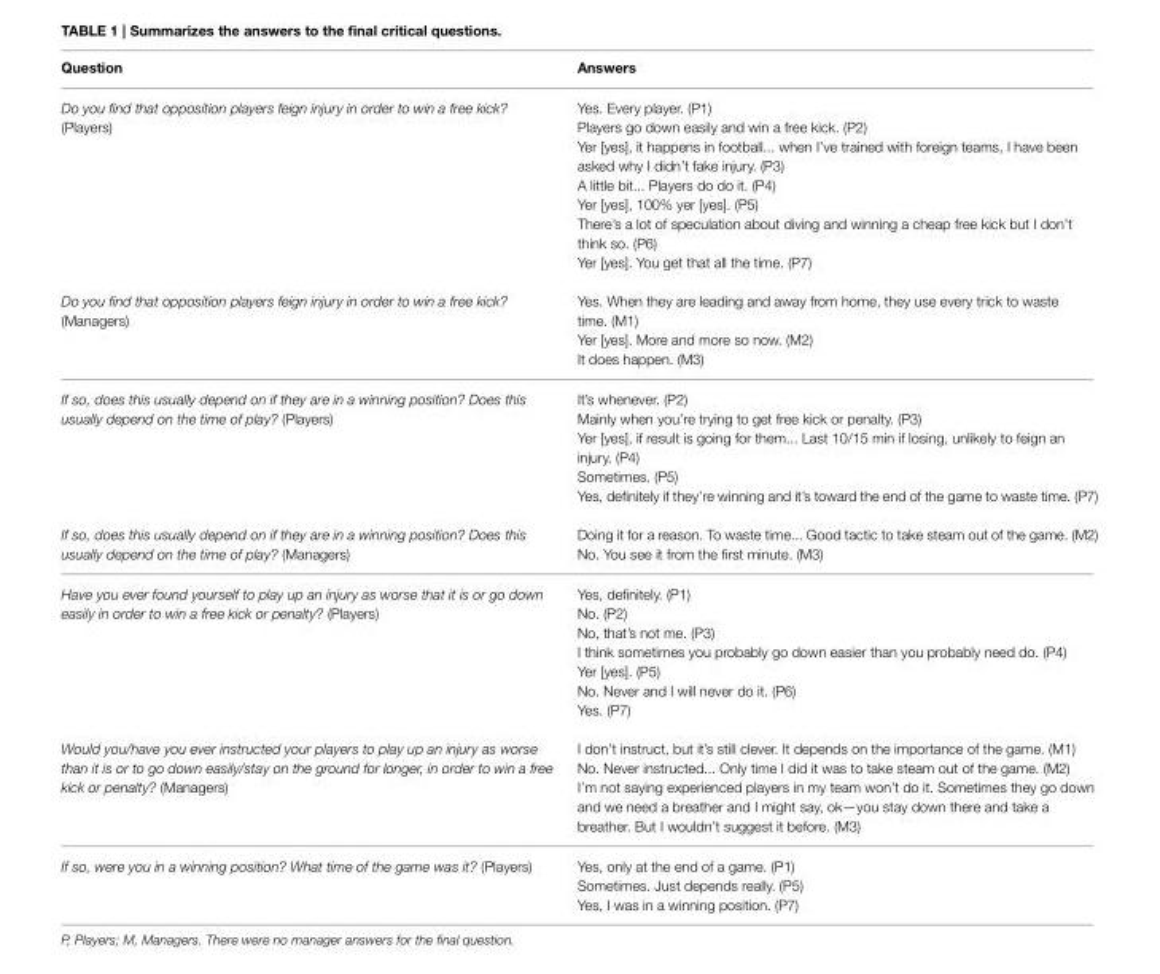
<table><thead><tr><td>Question</td><td>Answers</td></tr></thead><tbody><tr><td>Do you find that opposition players feign injury in order to win a free kick? (Players) Do you find that opposition players feign injury in order to win a free kick? (Managers)</td><td>Yes. Every player. (P1) Players go down easily and win a free kick. (P2) Yer [yes], it happens in football... when I’ve trained with foreign teams, I have been asked why I didn’t fake injury. (P3) A little bit... Players do do it. (P4) Yer [yes], 100% yer [yes]. (P5) There’s a lot of speculation about diving and winning a cheap free kick but I don’t think so. (P6) Yer [yes]. You get that all the time. (P7) Yes. When they are leading and away from home, they use every trick to waste time. (M1) Yer [yes]. More and more so now. (M2) It does happen. (M3)</td></tr><tr><td>If so, does this usually depend on if they are in a winning position? Does this usually depend on the time of play? (Players) If so, does this usually depend on if they are in a winning position? Does this usually depend on the time of play? (Managers)</td><td>It’s whenever. (P2) Mainly when you’re trying to get free kick or penalty. (P3) Yer [yes], if result is going for them... Last 10/15 min if losing, unlikely to feign an injury. (P4) Sometimes. (P5) Yes, definitely if they’re winning and it’s toward the end of the game to waste time. (P7) Doing it for a reason. To waste time... Good tactic to take steam out of the game. (M2) No. You see it from the first minute. (M3)</td></tr><tr><td>Have you ever found yourself to play up an injury as worse that it is or go down easily in order to win a free kick or penalty? (Players) Would you/have you ever instructed your players to play up an injury as worse than it is or to go down easily/stay on the ground for longer, in order to win a free kick or penalty? (Managers)</td><td>Yes, definitely. (P1) No. (P2) No, that’s not me. (P3) I think sometimes you probably go down easier than you probably need do. (P4) Yer [yes]. (P5) No. Never and I will never do it. (P6) Yes. (P7) I don’t instruct, but it’s still clever. It depends on the importance of the game. (M1) No. Never instructed... Only time I did it was to take steam out of the game. (M2) I’m not saying experienced players in my team won’t do it. Sometimes they go down and we need a breather and I might say, ok—you stay down there and take a breather. But I wouldn’t suggest it before. (M3)</td></tr><tr><td>If so, were you in a winning position? What time of the game was it? (Players)</td><td>Yes, only at the end of a game. (P1) Sometimes. Just depends really. (P5) Yes, I was in a winning position. (P7)</td></tr></tbody></table>